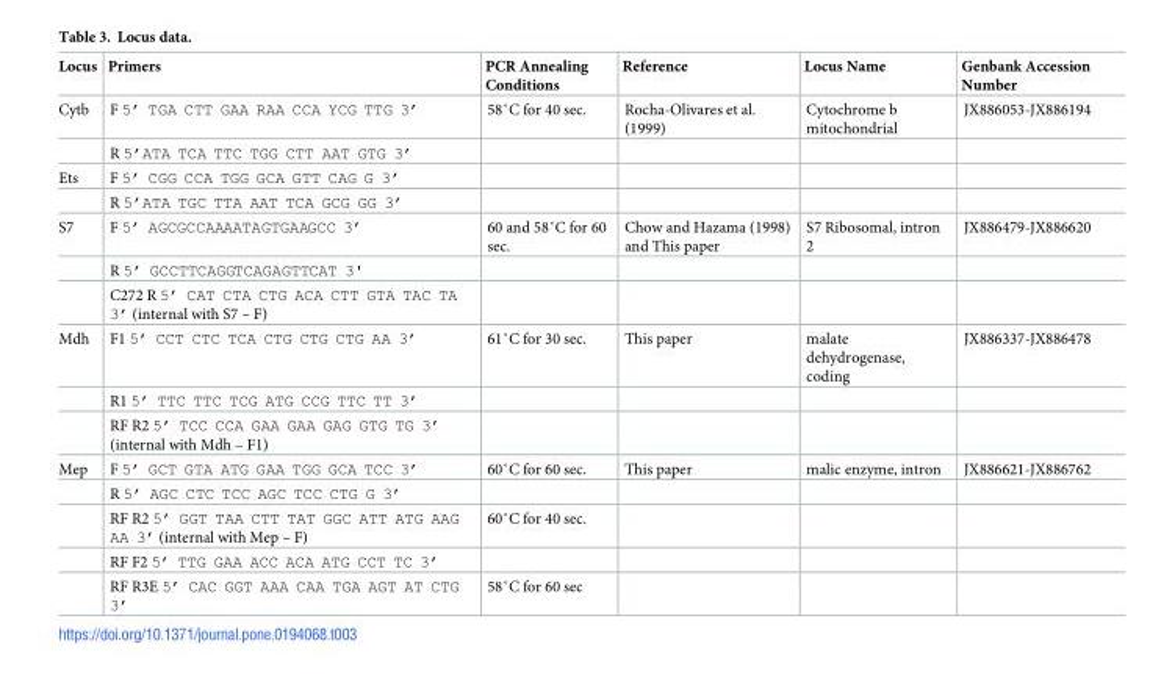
<table><thead><tr><td>Locus</td><td>Primers</td><td>PCR Annealing Conditions</td><td>Reference</td><td>Locus Name</td><td>Genbank Accession Number</td></tr></thead><tbody><tr><td rowspan="2">Cytb</td><td>F 5’ TGA CTT GAA RAA CCA YCG TTG 3’</td><td>58˚C for 40 sec.</td><td>Rocha-Olivares et al. (1999)</td><td>Cytochrome b mitochondrial</td><td>JX886053-JX886194</td></tr><tr><td>R 5’ATA TCA TTC TGG CTT AAT GTG 3’</td><td></td><td></td><td></td><td></td></tr><tr><td rowspan="2">Ets</td><td>F 5’ CGG CCA TGG GCA GTT CAG G 3’</td><td></td><td></td><td></td><td></td></tr><tr><td>R 5’ATA TGC TTA AAT TCA GCG GG 3’</td><td></td><td></td><td></td><td></td></tr><tr><td rowspan="3">S7</td><td>F 5’ AGCGCCAAAATAGTGAAGCC 3’</td><td>60 and 58˚C for 60 sec.</td><td>Chow and Hazama (1998) and This paper</td><td>S7 Ribosomal, intron 2</td><td>JX886479-JX886620</td></tr><tr><td>R 5’ GCCTTCAGGTCAGAGTTCAT 3&#x27;</td><td></td><td></td><td></td><td></td></tr><tr><td>C272 R 5’ CAT CTA CTG ACA CTT GTA TAC TA 3’ (internal with S7 – F)</td><td></td><td></td><td></td><td></td></tr><tr><td rowspan="3">Mdh</td><td>F1 5’ CCT CTC TCA CTG CTG CTG AA 3’</td><td>61˚C for 30 sec.</td><td>This paper</td><td>malate dehydrogenase, coding</td><td>JX886337-JX886478</td></tr><tr><td>R1 5’ TTC TTC TCG ATG CCG TTC TT 3’</td><td></td><td></td><td></td><td></td></tr><tr><td>RF R2 5’ TCC CCA GAA GAA GAG GTG TG 3’ (internal with Mdh – F1)</td><td></td><td></td><td></td><td></td></tr><tr><td rowspan="5">Mep</td><td>F 5’ GCT GTA ATG GAA TGG GCA TCC 3’</td><td>60˚C for 60 sec.</td><td>This paper</td><td>malic enzyme, intron</td><td>JX886621-JX886762</td></tr><tr><td>R 5’ AGC CTC TCC AGC TCC CTG G 3’</td><td></td><td></td><td></td><td></td></tr><tr><td>RF R2 5’ GGT TAA CTT TAT GGC ATT ATG AAG AA 3’ (internal with Mep – F)</td><td>60˚C for 40 sec.</td><td></td><td></td><td></td></tr><tr><td>RF F2 5’ TTG GAA ACC ACA ATG CCT TC 3’</td><td></td><td></td><td></td><td></td></tr><tr><td>RF R3E 5’ CAC GGT AAA CAA TGA AGT AT CTG 3’</td><td>58˚C for 60 sec</td><td></td><td></td><td></td></tr></tbody></table>